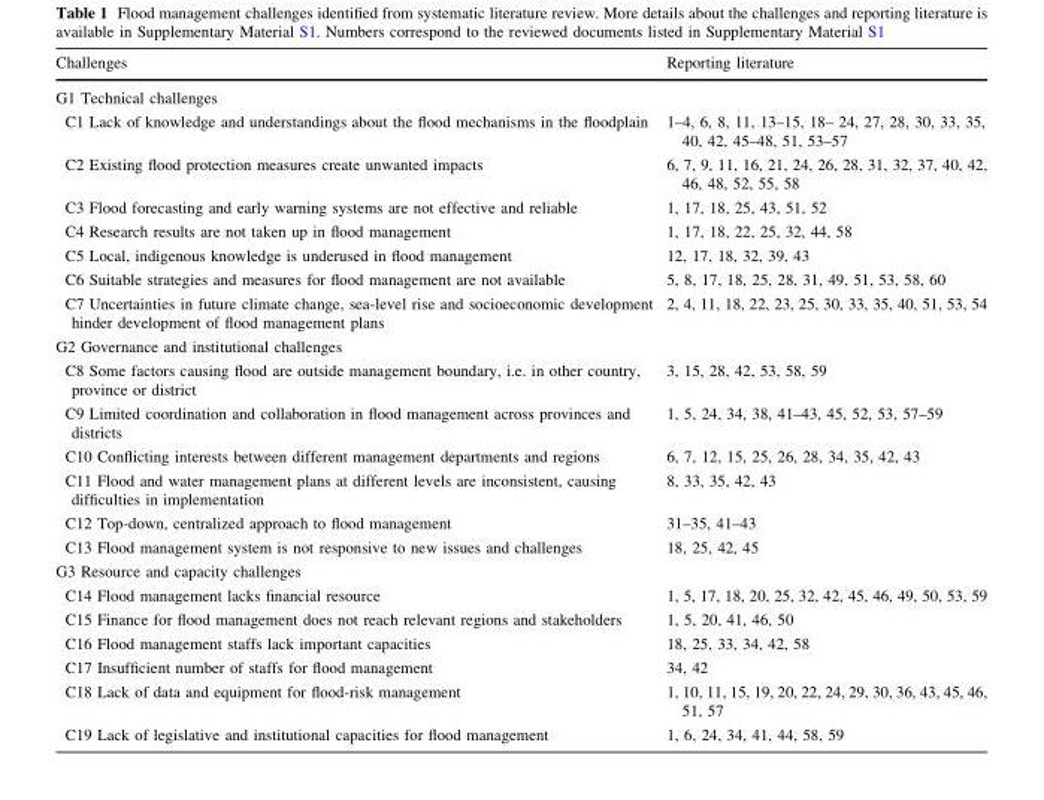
<table><thead><tr><td>Challenges</td><td>Reporting literature</td></tr></thead><tbody><tr><td colspan="2">G1 Technical challenges</td></tr><tr><td>C1 Lack of knowledge and understandings about the flood mechanisms in the floodplain</td><td>1–4, 6, 8, 11, 13–15, 18– 24, 27, 28, 30, 33, 35, 40, 42, 45–48, 51, 53–57</td></tr><tr><td>C2 Existing flood protection measures create unwanted impacts</td><td>6, 7, 9, 11, 16, 21, 24, 26, 28, 31, 32, 37, 40, 42, 46, 48, 52, 55, 58</td></tr><tr><td>C3 Flood forecasting and early warning systems are not effective and reliable</td><td>1, 17, 18, 25, 43, 51, 52</td></tr><tr><td>C4 Research results are not taken up in flood management</td><td>1, 17, 18, 22, 25, 32, 44, 58</td></tr><tr><td>C5 Local, indigenous knowledge is underused in flood management</td><td>12, 17, 18, 32, 39, 43</td></tr><tr><td>C6 Suitable strategies and measures for flood management are not available</td><td>5, 8, 17, 18, 25, 28, 31, 49, 51, 53, 58, 60</td></tr><tr><td>C7 Uncertainties in future climate change, sea-level rise and socioeconomic development hinder development of flood management plans</td><td>2, 4, 11, 18, 22, 23, 25, 30, 33, 35, 40, 51, 53, 54</td></tr><tr><td colspan="2">G2 Governance and institutional challenges</td></tr><tr><td>C8 Some factors causing flood are outside management boundary, i.e. in other country, province or district</td><td>3, 15, 28, 42, 53, 58, 59</td></tr><tr><td>C9 Limited coordination and collaboration in flood management across provinces and districts</td><td>1, 5, 24, 34, 38, 41–43, 45, 52, 53, 57–59</td></tr><tr><td>C10 Conflicting interests between different management departments and regions</td><td>6, 7, 12, 15, 25, 26, 28, 34, 35, 42, 43</td></tr><tr><td>C11 Flood and water management plans at different levels are inconsistent, causing difficulties in implementation</td><td>8, 33, 35, 42, 43</td></tr><tr><td>C12 Top-down, centralized approach to flood management</td><td>31–35, 41–43</td></tr><tr><td>C13 Flood management system is not responsive to new issues and challenges</td><td>18, 25, 42, 45</td></tr><tr><td colspan="2">G3 Resource and capacity challenges</td></tr><tr><td>C14 Flood management lacks financial resource</td><td>1, 5, 17, 18, 20, 25, 32, 42, 45, 46, 49, 50, 53, 59</td></tr><tr><td>C15 Finance for flood management does not reach relevant regions and stakeholders</td><td>1, 5, 20, 41, 46, 50</td></tr><tr><td>C16 Flood management staffs lack important capacities</td><td>18, 25, 33, 34, 42, 58</td></tr><tr><td>C17 Insufficient number of staffs for flood management</td><td>34, 42</td></tr><tr><td>C18 Lack of data and equipment for flood-risk management</td><td>1, 10, 11, 15, 19, 20, 22, 24, 29, 30, 36, 43, 45, 46, 51, 57</td></tr><tr><td>C19 Lack of legislative and institutional capacities for flood management</td><td>1, 6, 24, 34, 41, 44, 58, 59</td></tr></tbody></table>